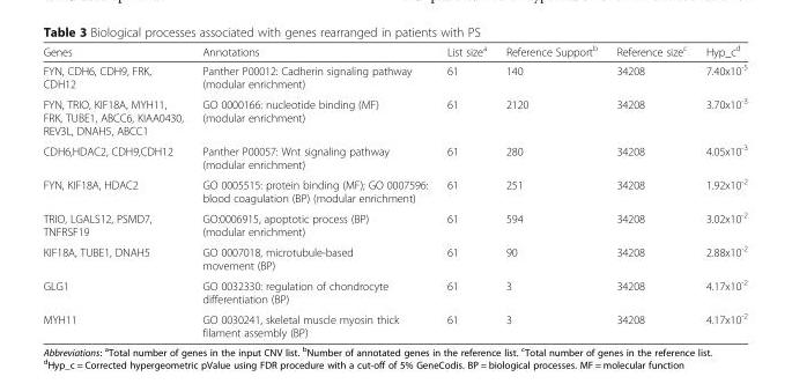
<table><thead><tr><td>Genes</td><td>Annotations</td><td>List size<sup>a</sup></td><td>Reference Support<sup>b</sup></td><td>Reference size<sup>c</sup></td><td>Hyp_c<sup>d</sup></td></tr></thead><tbody><tr><td>FYN, CDH6, CDH9, FRK, CDH12</td><td>Panther P00012: Cadherin signaling pathway (modular enrichment)</td><td>61</td><td>140</td><td>34208</td><td>7.40x10<sup>-5</sup></td></tr><tr><td>FYN, TRIO, KIF18A, MYH11, FRK, TUBE1, ABCC6, KIAA0430, REV3L, DNAH5, ABCC1</td><td>GO 0000166: nucleotide binding (MF) (modular enrichment)</td><td>61</td><td>2120</td><td>34208</td><td>3.70x10<sup>-3</sup></td></tr><tr><td>CDH6,HDAC2, CDH9,CDH12</td><td>Panther P00057: Wnt signaling pathway (modular enrichment)</td><td>61</td><td>280</td><td>34208</td><td>4.05x10<sup>-3</sup></td></tr><tr><td>FYN, KIF18A, HDAC2</td><td>GO 0005515: protein binding (MF); GO 0007596: blood coagulation (BP) (modular enrichment)</td><td>61</td><td>251</td><td>34208</td><td>1.92x10<sup>-2</sup></td></tr><tr><td>TRIO, LGALS12, PSMD7, TNFRSF19</td><td>GO:0006915, apoptotic process (BP) (modular enrichment)</td><td>61</td><td>594</td><td>34208</td><td>3.02x10<sup>-2</sup></td></tr><tr><td>KIF18A, TUBE1, DNAH5</td><td>GO 0007018, microtubule-based movement (BP)</td><td>61</td><td>90</td><td>34208</td><td>2.88x10<sup>-2</sup></td></tr><tr><td>GLG1</td><td>GO 0032330: regulation of chondrocyte differentiation (BP)</td><td>61</td><td>3</td><td>34208</td><td>4.17x10<sup>-2</sup></td></tr><tr><td>MYH11</td><td>GO 0030241, skeletal muscle myosin thick filament assembly (BP)</td><td>61</td><td>3</td><td>34208</td><td>4.17x10<sup>-2</sup></td></tr></tbody></table>